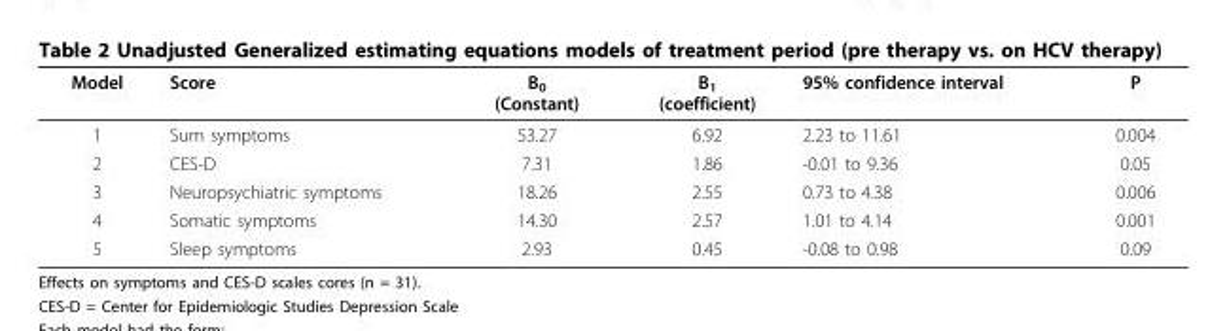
<table><thead><tr><td>Model</td><td>Score</td><td>B<sub>0</sub> (Constant)</td><td>B<sub>1</sub> (coefficient)</td><td>95% confidence interval</td><td>P</td></tr></thead><tbody><tr><td>1</td><td>Sum symptoms</td><td>53.27</td><td>6.92</td><td>2.23 to 11.61</td><td>0.004</td></tr><tr><td>2</td><td>CES-D</td><td>7.31</td><td>1.86</td><td>-0.01 to 9.36</td><td>0.05</td></tr><tr><td>3</td><td>Neuropsychiatric symptoms</td><td>18.26</td><td>2.55</td><td>0.73 to 4.38</td><td>0.006</td></tr><tr><td>4</td><td>Somatic symptoms</td><td>14.30</td><td>2.57</td><td>1.01 to 4.14</td><td>0.001</td></tr><tr><td>5</td><td>Sleep symptoms</td><td>2.93</td><td>0.45</td><td>-0.08 to 0.98</td><td>0.09</td></tr></tbody></table>